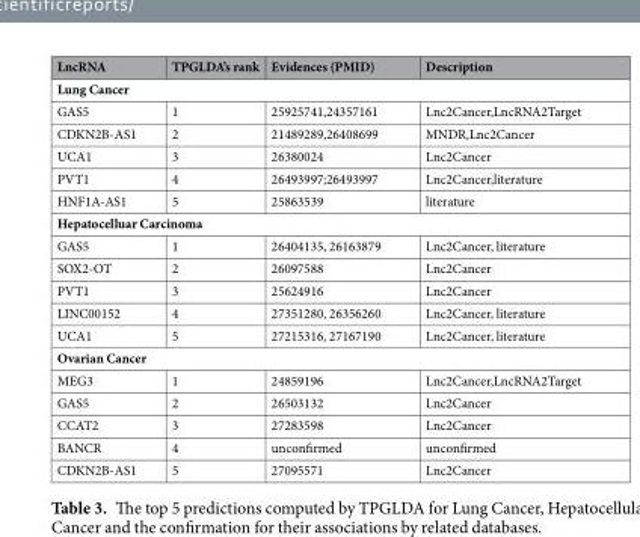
<table><thead><tr><td>LncRNA</td><td>TPGLDA’s rank</td><td>Evidences (PMID)</td><td>Description</td></tr></thead><tbody><tr><td colspan="4">Lung Cancer</td></tr><tr><td>GAS5</td><td>1</td><td>25925741,24357161</td><td>Lnc2Cancer,LncRNA2Target</td></tr><tr><td>CDKN2B-AS1</td><td>2</td><td>21489289,26408699</td><td>MNDR,Lnc2Cancer</td></tr><tr><td>UCA1</td><td>3</td><td>26380024</td><td>Lnc2Cancer</td></tr><tr><td>PVT1</td><td>4</td><td>26493997;26493997</td><td>Lnc2Cancer,literature</td></tr><tr><td>HNF1A-AS1</td><td>5</td><td>25863539</td><td>literature</td></tr><tr><td colspan="4">Hepatocelluar Carcinoma</td></tr><tr><td>GAS5</td><td>1</td><td>26404135, 26163879</td><td>Lnc2Cancer, literature</td></tr><tr><td>SOX2-OT</td><td>2</td><td>26097588</td><td>Lnc2Cancer</td></tr><tr><td>PVT1</td><td>3</td><td>25624916</td><td>Lnc2Cancer</td></tr><tr><td>LINC00152</td><td>4</td><td>27351280, 26356260</td><td>Lnc2Cancer, literature</td></tr><tr><td>UCA1</td><td>5</td><td>27215316, 27167190</td><td>Lnc2Cancer, literature</td></tr><tr><td colspan="4">Ovarian Cancer</td></tr><tr><td>MEG3</td><td>1</td><td>24859196</td><td>Lnc2Cancer,LncRNA2Target</td></tr><tr><td>GAS5</td><td>2</td><td>26503132</td><td>Lnc2Cancer</td></tr><tr><td>CCAT2</td><td>3</td><td>27283598</td><td>Lnc2Cancer</td></tr><tr><td>BANCR</td><td>4</td><td>unconfirmed</td><td>unconfirmed</td></tr><tr><td>CDKN2B-AS1</td><td>5</td><td>27095571</td><td>Lnc2Cancer</td></tr></tbody></table>